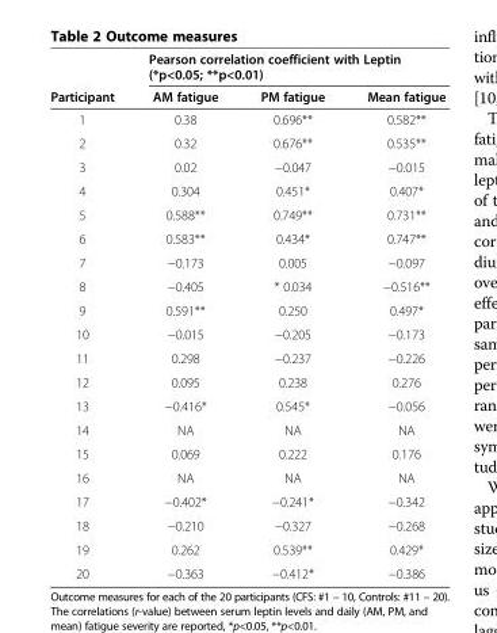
<table><thead><tr><td rowspan="2">Participant</td><td colspan="3">Pearson correlation coefficient with Leptin (*p&lt;0.05; **p&lt;0.01)</td></tr><tr><td>AM fatigue</td><td>PM fatigue</td><td>Mean fatigue</td></tr></thead><tbody><tr><td>1</td><td>0.38</td><td>0.696**</td><td>0.582**</td></tr><tr><td>2</td><td>0.32</td><td>0.676**</td><td>0.535**</td></tr><tr><td>3</td><td>0.02</td><td>−0.047</td><td>−0.015</td></tr><tr><td>4</td><td>0.304</td><td>0.451*</td><td>0.407*</td></tr><tr><td>5</td><td>0.588**</td><td>0.749**</td><td>0.731**</td></tr><tr><td>6</td><td>0.583**</td><td>0.434*</td><td>0.747**</td></tr><tr><td>7</td><td>−0.173</td><td>0.005</td><td>−0.097</td></tr><tr><td>8</td><td>−0.405</td><td>* 0.034</td><td>−0.516**</td></tr><tr><td>9</td><td>0.591**</td><td>0.250</td><td>0.497*</td></tr><tr><td>10</td><td>−0.015</td><td>−0.205</td><td>−0.173</td></tr><tr><td>11</td><td>0.298</td><td>−0.237</td><td>−0.226</td></tr><tr><td>12</td><td>0.095</td><td>0.238</td><td>0.276</td></tr><tr><td>13</td><td>−0.416*</td><td>0.545*</td><td>−0.056</td></tr><tr><td>14</td><td>NA</td><td>NA</td><td>NA</td></tr><tr><td>15</td><td>0.069</td><td>0.222</td><td>0.176</td></tr><tr><td>16</td><td>NA</td><td>NA</td><td>NA</td></tr><tr><td>17</td><td>−0.402*</td><td>−0.241*</td><td>−0.342</td></tr><tr><td>18</td><td>−0.210</td><td>−0.327</td><td>−0.268</td></tr><tr><td>19</td><td>0.262</td><td>0.539**</td><td>0.429*</td></tr><tr><td>20</td><td>−0.363</td><td>−0.412*</td><td>−0.386</td></tr></tbody></table>